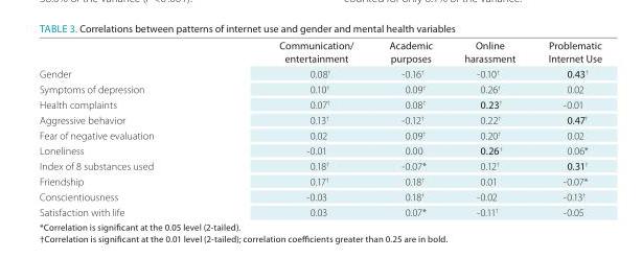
<table><thead><tr><td></td><td>Communication/ entertainment</td><td>academic purposes</td><td>online harassment</td><td>Problematic Internet Use</td></tr></thead><tbody><tr><td>Gender</td><td>0.08<sup>†</sup></td><td>-0.16<sup>†</sup></td><td>-0.10<sup>†</sup></td><td>0.43<sup>†</sup></td></tr><tr><td>Symptoms of depression</td><td>0.10<sup>†</sup></td><td>0.09<sup>†</sup></td><td>0.26<sup>†</sup></td><td>0.02</td></tr><tr><td>Health complaints</td><td>0.07<sup>†</sup></td><td>0.08<sup>†</sup></td><td>0.23<sup>†</sup></td><td>-0.01</td></tr><tr><td>Aggressive behavior</td><td>0.13<sup>†</sup></td><td>-0.12<sup>†</sup></td><td>0.22<sup>†</sup></td><td>0.47<sup>†</sup></td></tr><tr><td>Fear of negative evaluation</td><td>0.02</td><td>0.09<sup>†</sup></td><td>0.20<sup>†</sup></td><td>0.02</td></tr><tr><td>Loneliness</td><td>-0.01</td><td>0.00</td><td>0.26<sup>†</sup></td><td>0.06*</td></tr><tr><td>Index of 8 substances used</td><td>0.18<sup>†</sup></td><td>-0.07*</td><td>0.12<sup>†</sup></td><td>0.31<sup>†</sup></td></tr><tr><td>Friendship</td><td>0.17<sup>†</sup></td><td>0.18<sup>†</sup></td><td>0.01</td><td>-0.07*</td></tr><tr><td>Conscientiousness</td><td>-0.03</td><td>0.18<sup>†</sup></td><td>-0.02</td><td>-0.13<sup>†</sup></td></tr><tr><td>Satisfaction with life</td><td>0.03</td><td>0.07*</td><td>-0.11<sup>†</sup></td><td>-0.05</td></tr></tbody></table>